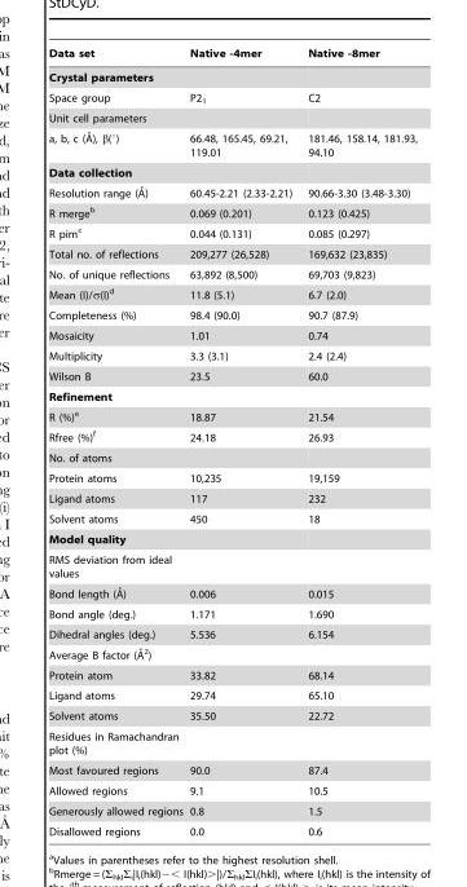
<table><thead><tr><td>Data set</td><td>Native -4mer</td><td>Native -8mer</td></tr></thead><tbody><tr><td colspan="3">Crystal parameters</td></tr><tr><td>Space group</td><td>P2<sub>1</sub></td><td>C2</td></tr><tr><td colspan="3">Unit cell parameters</td></tr><tr><td>a, b, c (A˚), b(u)</td><td>66.48, 165.45, 69.21, 119.01</td><td>181.46, 158.14, 181.93, 94.10</td></tr><tr><td colspan="3">Data collection</td></tr><tr><td>Resolution range (A˚)</td><td>60.45-2.21 (2.33-2.21)</td><td>90.66-3.30 (3.48-3.30)</td></tr><tr><td>R merge<sup>b</sup></td><td>0.069 (0.201)</td><td>0.123 (0.425)</td></tr><tr><td>R pim<sup>c</sup></td><td>0.044 (0.131)</td><td>0.085 (0.297)</td></tr><tr><td>Total no. of reflections</td><td>209,277 (26,528)</td><td>169,632 (23,835)</td></tr><tr><td>No. of unique reflections</td><td>63,892 (8,500)</td><td>69,703 (9,823)</td></tr><tr><td>Mean (I)/σ(I)<sup>d</sup></td><td>11.8 (5.1)</td><td>6.7 (2.0)</td></tr><tr><td>Completeness (%)</td><td>98.4 (90.0)</td><td>90.7 (87.9)</td></tr><tr><td>Mosaicity</td><td>1.01</td><td>0.74</td></tr><tr><td>Multiplicity</td><td>3.3 (3.1)</td><td>2.4 (2.4)</td></tr><tr><td>Wilson B</td><td>23.5</td><td>60.0</td></tr><tr><td colspan="3">Refinement</td></tr><tr><td>R (%)<sup>e</sup></td><td>18.87</td><td>21.54</td></tr><tr><td>Rfree (%)<sup>f</sup></td><td>24.18</td><td>26.93</td></tr><tr><td colspan="3">No. of atoms</td></tr><tr><td>Protein atoms</td><td>10,235</td><td>19,159</td></tr><tr><td>Ligand atoms</td><td>117</td><td>232</td></tr><tr><td>Solvent atoms</td><td>450</td><td>18</td></tr><tr><td colspan="3">Model quality</td></tr><tr><td colspan="3">RMS deviation from ideal values</td></tr><tr><td>Bond length (A˚)</td><td>0.006</td><td>0.015</td></tr><tr><td>Bond angle (deg.)</td><td>1.171</td><td>1.690</td></tr><tr><td>Dihedral angles (deg.)</td><td>5.536</td><td>6.154</td></tr><tr><td colspan="3">Average B factor (A˚ 2)</td></tr><tr><td>Protein atom</td><td>33.82</td><td>68.14</td></tr><tr><td>Ligand atoms</td><td>29.74</td><td>65.10</td></tr><tr><td>Solvent atoms</td><td>35.50</td><td>22.72</td></tr><tr><td colspan="3">Residues in Ramachandran plot (%)</td></tr><tr><td>Most favoured regions</td><td>90.0</td><td>87.4</td></tr><tr><td>Allowed regions</td><td>9.1</td><td>10.5</td></tr><tr><td>Generously allowed regions</td><td>0.8</td><td>1.5</td></tr><tr><td>Disallowed regions</td><td>0.0</td><td>0.6</td></tr></tbody></table>